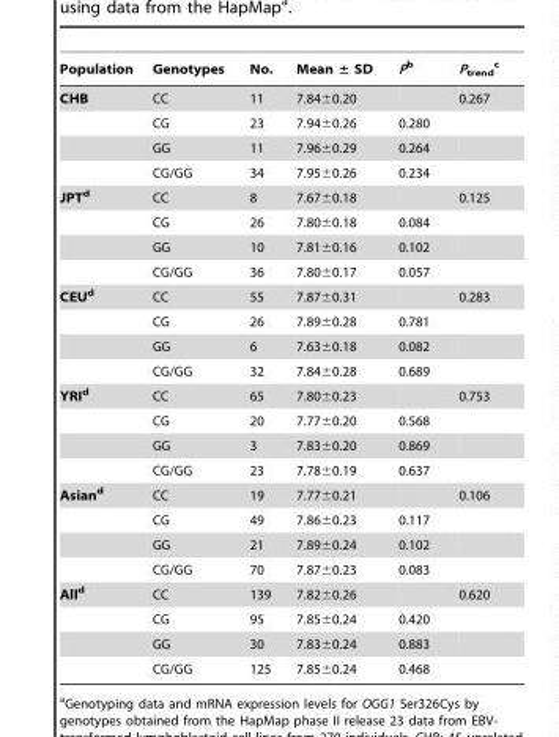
<table><thead><tr><td>Population</td><td>Genotypes</td><td>No.</td><td>Mean ± SD</td><td>Pb</td><td>P<sub>trend</sub> c</td></tr></thead><tbody><tr><td rowspan="4">CHB</td><td>CC</td><td>11</td><td>7.84±0.20</td><td></td><td>0.267</td></tr><tr><td>CG</td><td>23</td><td>7.94±0.26</td><td>0.280</td><td></td></tr><tr><td>GG</td><td>11</td><td>7.96±0.29</td><td>0.264</td><td></td></tr><tr><td>CG/GG</td><td>34</td><td>7.95±0.26</td><td>0.234</td><td></td></tr><tr><td rowspan="4">JPTd</td><td>CC</td><td>8</td><td>7.67±0.18</td><td></td><td>0.125</td></tr><tr><td>CG</td><td>26</td><td>7.80±0.18</td><td>0.084</td><td></td></tr><tr><td>GG</td><td>10</td><td>7.81±0.16</td><td>0.102</td><td></td></tr><tr><td>CG/GG</td><td>36</td><td>7.80±0.17</td><td>0.057</td><td></td></tr><tr><td rowspan="4">CEUd</td><td>CC</td><td>55</td><td>7.87±0.31</td><td></td><td>0.283</td></tr><tr><td>CG</td><td>26</td><td>7.89±0.28</td><td>0.781</td><td></td></tr><tr><td>GG</td><td>6</td><td>7.63±0.18</td><td>0.082</td><td></td></tr><tr><td>CG/GG</td><td>32</td><td>7.84±0.28</td><td>0.689</td><td></td></tr><tr><td rowspan="4">YRId</td><td>CC</td><td>65</td><td>7.80±0.23</td><td></td><td>0.753</td></tr><tr><td>CG</td><td>20</td><td>7.77±0.20</td><td>0.568</td><td></td></tr><tr><td>GG</td><td>3</td><td>7.83±0.20</td><td>0.869</td><td></td></tr><tr><td>CG/GG</td><td>23</td><td>7.78±0.19</td><td>0.637</td><td></td></tr><tr><td rowspan="4">Asiand</td><td>CC</td><td>19</td><td>7.77±0.21</td><td></td><td>0.106</td></tr><tr><td>CG</td><td>49</td><td>7.86±0.23</td><td>0.117</td><td></td></tr><tr><td>GG</td><td>21</td><td>7.89±0.24</td><td>0.102</td><td></td></tr><tr><td>CG/GG</td><td>70</td><td>7.87±0.23</td><td>0.083</td><td></td></tr><tr><td rowspan="4">Alld</td><td>CC</td><td>139</td><td>7.82±0.26</td><td></td><td>0.620</td></tr><tr><td>CG</td><td>95</td><td>7.85±0.24</td><td>0.420</td><td></td></tr><tr><td>GG</td><td>30</td><td>7.83±0.24</td><td>0.883</td><td></td></tr><tr><td>CG/GG</td><td>125</td><td>7.85±0.24</td><td>0.468</td><td></td></tr></tbody></table>